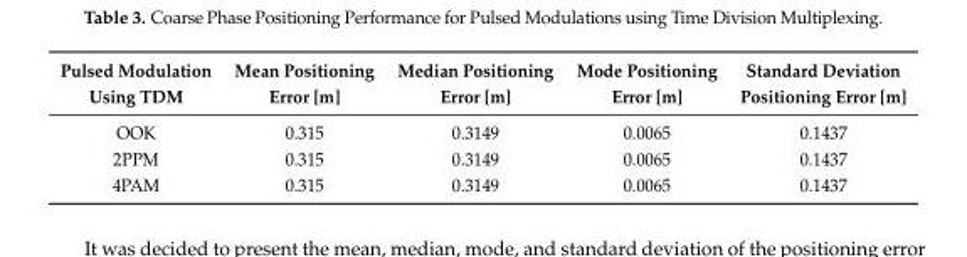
<table><thead><tr><td>Pulsed Modulation Using TDM</td><td>Mean Positioning Error [m]</td><td>Median Positioning Error [m]</td><td>Mode Positioning Error [m]</td><td>Standard Deviation Positioning Error [m]</td></tr></thead><tbody><tr><td>OOK</td><td>0.315</td><td>0.3149</td><td>0.0065</td><td>0.1437</td></tr><tr><td>2PPM</td><td>0.315</td><td>0.3149</td><td>0.0065</td><td>0.1437</td></tr><tr><td>4PAM</td><td>0.315</td><td>0.3149</td><td>0.0065</td><td>0.1437</td></tr></tbody></table>